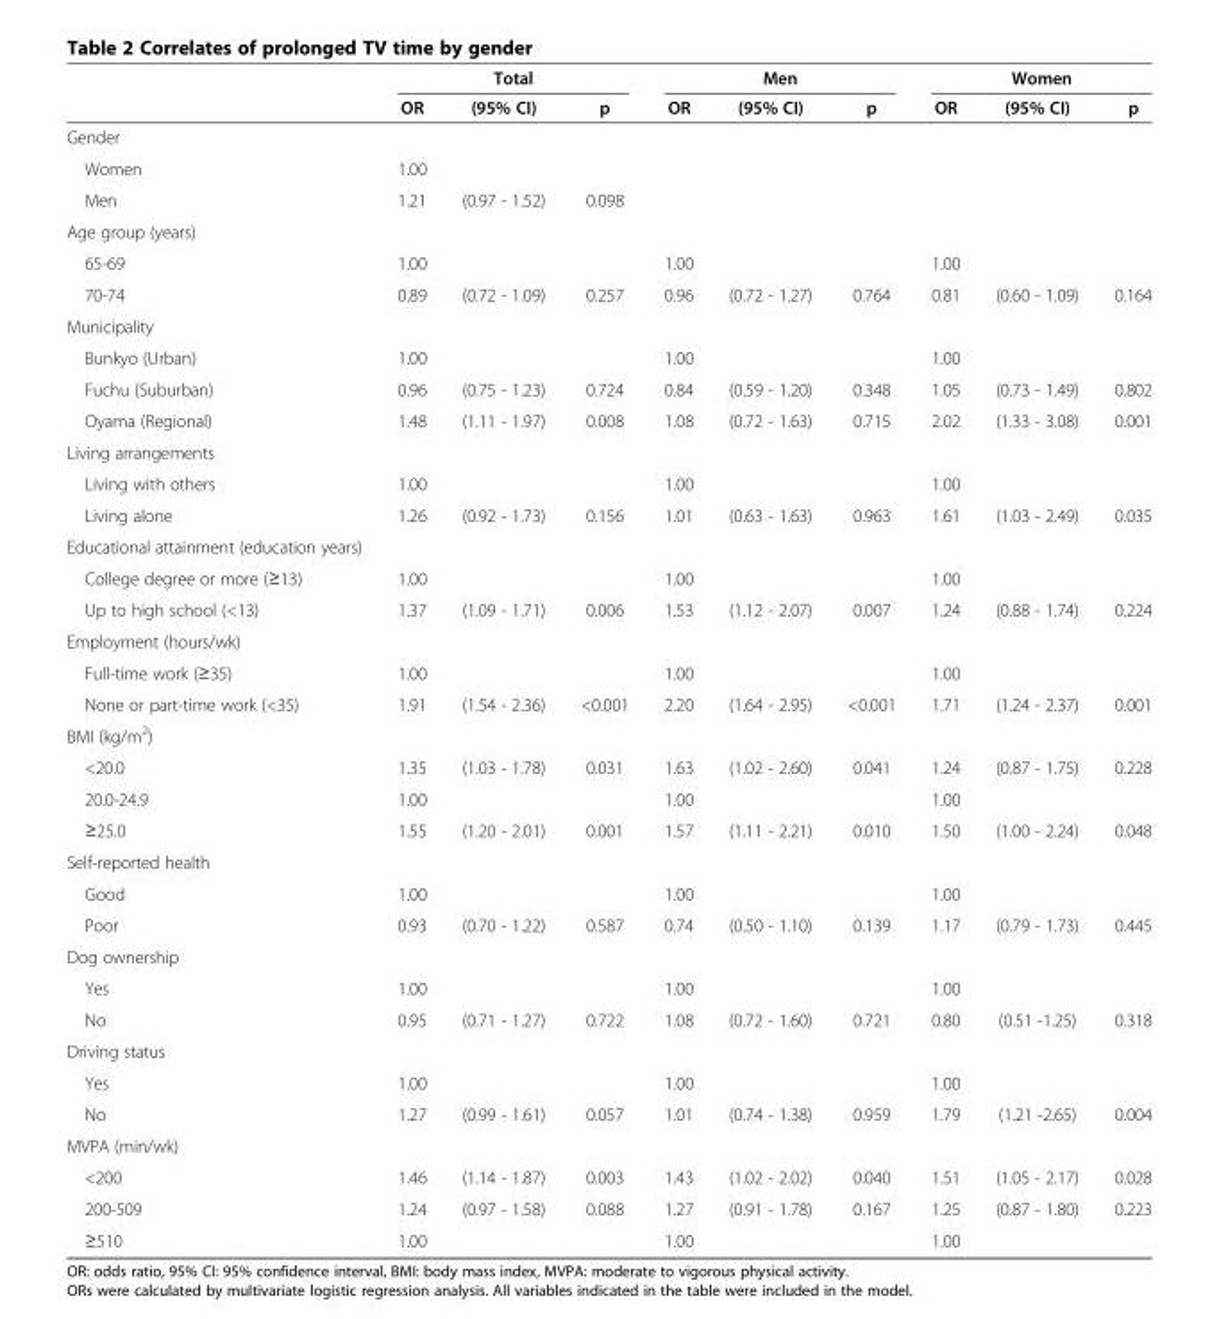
<table><thead><tr><td rowspan="2"></td><td colspan="3">Total</td><td colspan="3">Men</td><td colspan="3">Women</td></tr><tr><td>OR</td><td>(95% CI)</td><td>p</td><td>OR</td><td>(95% CI)</td><td>p</td><td>OR</td><td>(95% CI)</td><td>p</td></tr></thead><tbody><tr><td colspan="10">Gender</td></tr><tr><td>Women</td><td>1.00</td><td></td><td></td><td></td><td></td><td></td><td></td><td></td><td></td></tr><tr><td>Men</td><td>1.21</td><td>(0.97 - 1.52)</td><td>0.098</td><td></td><td></td><td></td><td></td><td></td><td></td></tr><tr><td colspan="10">Age group (years)</td></tr><tr><td>65-69</td><td>1.00</td><td></td><td></td><td>1.00</td><td></td><td></td><td>1.00</td><td></td><td></td></tr><tr><td>70-74</td><td>0.89</td><td>(0.72 - 1.09)</td><td>0.257</td><td>0.96</td><td>(0.72 - 1.27)</td><td>0.764</td><td>0.81</td><td>(0.60 - 1.09)</td><td>0.164</td></tr><tr><td colspan="10">Municipality</td></tr><tr><td>Bunkyo (Urban)</td><td>1.00</td><td></td><td></td><td>1.00</td><td></td><td></td><td>1.00</td><td></td><td></td></tr><tr><td>Fuchu (Suburban)</td><td>0.96</td><td>(0.75 - 1.23)</td><td>0.724</td><td>0.84</td><td>(0.59 - 1.20)</td><td>0.348</td><td>1.05</td><td>(0.73 - 1.49)</td><td>0.802</td></tr><tr><td>Oyama (Regional)</td><td>1.48</td><td>(1.11 - 1.97)</td><td>0.008</td><td>1.08</td><td>(0.72 - 1.63)</td><td>0.715</td><td>2.02</td><td>(1.33 - 3.08)</td><td>0.001</td></tr><tr><td colspan="10">Living arrangements</td></tr><tr><td>Living with others</td><td>1.00</td><td></td><td></td><td>1.00</td><td></td><td></td><td>1.00</td><td></td><td></td></tr><tr><td>Living alone</td><td>1.26</td><td>(0.92 - 1.73)</td><td>0.156</td><td>1.01</td><td>(0.63 - 1.63)</td><td>0.963</td><td>1.61</td><td>(1.03 - 2.49)</td><td>0.035</td></tr><tr><td colspan="10">Educational attainment (education years)</td></tr><tr><td>College degree or more (≥13)</td><td>1.00</td><td></td><td></td><td>1.00</td><td></td><td></td><td>1.00</td><td></td><td></td></tr><tr><td>Up to high school (&lt;13)</td><td>1.37</td><td>(1.09 - 1.71)</td><td>0.006</td><td>1.53</td><td>(1.12 - 2.07)</td><td>0.007</td><td>1.24</td><td>(0.88 - 1.74)</td><td>0.224</td></tr><tr><td colspan="10">Employment (hours/wk)</td></tr><tr><td>Full-time work (≥35)</td><td>1.00</td><td></td><td></td><td>1.00</td><td></td><td></td><td>1.00</td><td></td><td></td></tr><tr><td>None or part-time work (&lt;35)</td><td>1.91</td><td>(1.54 - 2.36)</td><td>&lt;0.001</td><td>2.20</td><td>(1.64 - 2.95)</td><td>&lt;0.001</td><td>1.71</td><td>(1.24 - 2.37)</td><td>0.001</td></tr><tr><td colspan="10">BMI (kg/m<sup>2</sup>)</td></tr><tr><td>&lt;20.0</td><td>1.35</td><td>(1.03 - 1.78)</td><td>0.031</td><td>1.63</td><td>(1.02 - 2.60)</td><td>0.041</td><td>1.24</td><td>(0.87 - 1.75)</td><td>0.228</td></tr><tr><td>20.0-24.9</td><td>1.00</td><td></td><td></td><td>1.00</td><td></td><td></td><td>1.00</td><td></td><td></td></tr><tr><td>≥25.0</td><td>1.55</td><td>(1.20 - 2.01)</td><td>0.001</td><td>1.57</td><td>(1.11 - 2.21)</td><td>0.010</td><td>1.50</td><td>(1.00 - 2.24)</td><td>0.048</td></tr><tr><td colspan="10">Self-reported health</td></tr><tr><td>Good</td><td>1.00</td><td></td><td></td><td>1.00</td><td></td><td></td><td>1.00</td><td></td><td></td></tr><tr><td>Poor</td><td>0.93</td><td>(0.70 - 1.22)</td><td>0.587</td><td>0.74</td><td>(0.50 - 1.10)</td><td>0.139</td><td>1.17</td><td>(0.79 - 1.73)</td><td>0.445</td></tr><tr><td colspan="10">Dog ownership</td></tr><tr><td>Yes</td><td>1.00</td><td></td><td></td><td>1.00</td><td></td><td></td><td>1.00</td><td></td><td></td></tr><tr><td>No</td><td>0.95</td><td>(0.71 - 1.27)</td><td>0.722</td><td>1.08</td><td>(0.72 - 1.60)</td><td>0.721</td><td>0.80</td><td>(0.51 -1.25)</td><td>0.318</td></tr><tr><td colspan="10">Driving status</td></tr><tr><td>Yes</td><td>1.00</td><td></td><td></td><td>1.00</td><td></td><td></td><td>1.00</td><td></td><td></td></tr><tr><td>No</td><td>1.27</td><td>(0.99 - 1.61)</td><td>0.057</td><td>1.01</td><td>(0.74 - 1.38)</td><td>0.959</td><td>1.79</td><td>(1.21 -2.65)</td><td>0.004</td></tr><tr><td colspan="10">MVPA (min/wk)</td></tr><tr><td>&lt;200</td><td>1.46</td><td>(1.14 - 1.87)</td><td>0.003</td><td>1.43</td><td>(1.02 - 2.02)</td><td>0.040</td><td>1.51</td><td>(1.05 - 2.17)</td><td>0.028</td></tr><tr><td>200-509</td><td>1.24</td><td>(0.97 - 1.58)</td><td>0.088</td><td>1.27</td><td>(0.91 - 1.78)</td><td>0.167</td><td>1.25</td><td>(0.87 - 1.80)</td><td>0.223</td></tr><tr><td>≥510</td><td>1.00</td><td></td><td></td><td>1.00</td><td></td><td></td><td>1.00</td><td></td><td></td></tr></tbody></table>